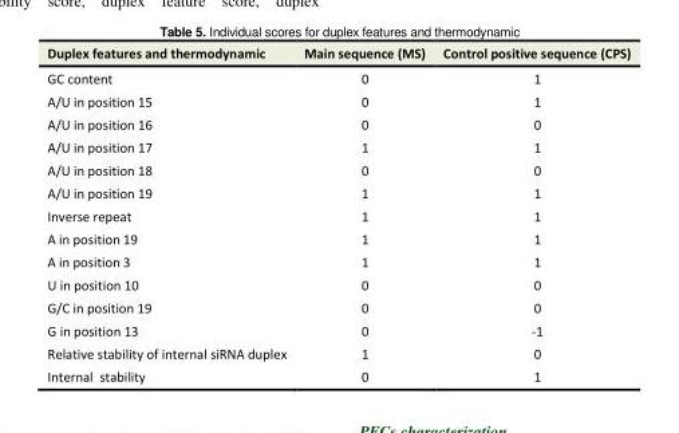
<table><tbody><tr><td>Duplex features and thermodynamic</td><td>Main sequence (MS)</td><td>Control positive sequence (CPS)</td></tr><tr><td>GC content</td><td>0</td><td>1</td></tr><tr><td>A/U in position 15</td><td>0</td><td>1</td></tr><tr><td>A/U in position 16</td><td>0</td><td>0</td></tr><tr><td>A/U in position 17</td><td>1</td><td>1</td></tr><tr><td>A/U in position 18</td><td>0</td><td>0</td></tr><tr><td>A/U in position 19</td><td>1</td><td>1</td></tr><tr><td>Inverse repeat</td><td>1</td><td>1</td></tr><tr><td>A in position 19</td><td>1</td><td>1</td></tr><tr><td>A in position 3</td><td>1</td><td>1</td></tr><tr><td>U in position 10</td><td>0</td><td>0</td></tr><tr><td>G/C in position 19</td><td>0</td><td>0</td></tr><tr><td>G in position 13</td><td>0</td><td>-1</td></tr><tr><td>Relative stability of internal siRNA duplex</td><td>1</td><td>0</td></tr><tr><td>Internal stability</td><td>0</td><td>1</td></tr></tbody></table>